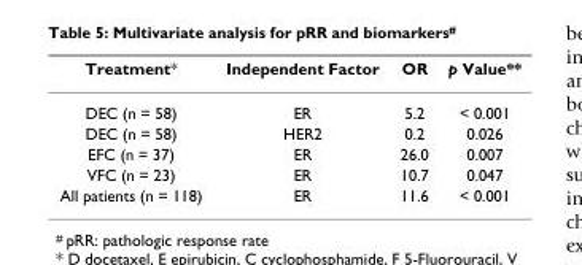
<table><thead><tr><td>Treatment*</td><td>Independent Factor</td><td>OR</td><td>p Value**</td></tr></thead><tbody><tr><td>DEC (n = 58)</td><td>ER</td><td>5.2</td><td>&lt; 0.001</td></tr><tr><td>DEC (n = 58)</td><td>HER2</td><td>0.2</td><td>0.026</td></tr><tr><td>EFC (n = 37)</td><td>ER</td><td>26.0</td><td>0.007</td></tr><tr><td>VFC (n = 23)</td><td>ER</td><td>10.7</td><td>0.047</td></tr><tr><td>All patients (n = 118)</td><td>ER</td><td>11.6</td><td>&lt; 0.001</td></tr></tbody></table>